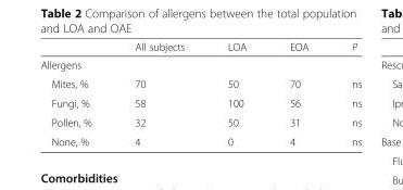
<table><thead><tr><td></td><td>All subjects</td><td>LOA</td><td>EOA</td><td>P</td></tr></thead><tbody><tr><td colspan="5">Allergens</td></tr><tr><td>Mites, %</td><td>70</td><td>50</td><td>70</td><td>ns</td></tr><tr><td>Fungi, %</td><td>58</td><td>100</td><td>56</td><td>ns</td></tr><tr><td>Pollen, %</td><td>32</td><td>50</td><td>31</td><td>ns</td></tr><tr><td>None, %</td><td>4</td><td>0</td><td>4</td><td>ns</td></tr></tbody></table>